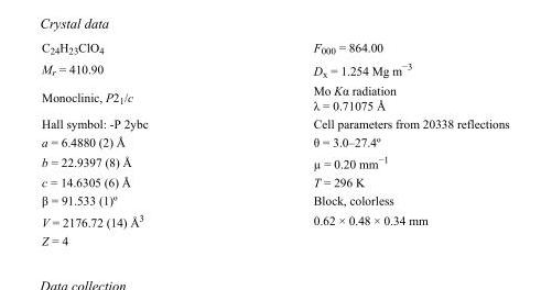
<table><tbody><tr><td>C<sub>24</sub>H<sub>23</sub>ClO<sub>4</sub></td><td>F000 = 864.00</td></tr><tr><td>M<sub>r</sub> = 410.90</td><td>D<sub>x</sub> = 1.254 Mg m<sup>−3</sup></td></tr><tr><td>Monoclinic, P2<sub>1</sub>/c</td><td>Mo Kα radiation λ = 0.71075 Å</td></tr><tr><td>Hall symbol: -P 2ybc</td><td>Cell parameters from 20338 reflections</td></tr><tr><td>a = 6.4880 (2) Å</td><td>θ = 3.0–27.4º</td></tr><tr><td>b = 22.9397 (8) Å</td><td>µ = 0.20 mm<sup>−1</sup></td></tr><tr><td>c = 14.6305 (6) Å</td><td>T = 296 K</td></tr><tr><td>β = 91.533 (1)º</td><td>Block, colorless</td></tr><tr><td>V = 2176.72 (14) Å<sup>3</sup></td><td>0.62 × 0.48 × 0.34 mm</td></tr><tr><td>Z = 4</td><td></td></tr></tbody></table>